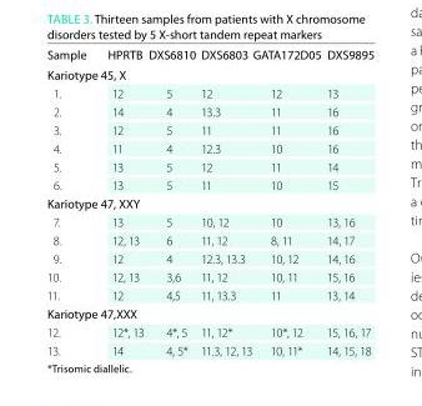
<table><thead><tr><td>sample</td><td>hPrTB</td><td>DXs6810</td><td>DXs6803</td><td>GaTa172D05</td><td>DXs9895</td></tr></thead><tbody><tr><td colspan="6">Kariotype 45, X</td></tr><tr><td>1.</td><td>12</td><td>5</td><td>12</td><td>12</td><td>13</td></tr><tr><td>2.</td><td>14</td><td>4</td><td>13.3</td><td>11</td><td>16</td></tr><tr><td>3.</td><td>12</td><td>5</td><td>11</td><td>11</td><td>16</td></tr><tr><td>4.</td><td>11</td><td>4</td><td>12.3</td><td>10</td><td>16</td></tr><tr><td>5.</td><td>13</td><td>5</td><td>12</td><td>11</td><td>14</td></tr><tr><td>6.</td><td>13</td><td>5</td><td>11</td><td>10</td><td>15</td></tr><tr><td colspan="6">Kariotype 47, XXY</td></tr><tr><td>7.</td><td>13</td><td>5</td><td>10, 12</td><td>10</td><td>13, 16</td></tr><tr><td>8.</td><td>12, 13</td><td>6</td><td>11, 12</td><td>8, 11</td><td>14, 17</td></tr><tr><td>9.</td><td>12</td><td>4</td><td>12.3, 13.3</td><td>10, 12</td><td>14, 16</td></tr><tr><td>10.</td><td>12, 13</td><td>3,6</td><td>11, 12</td><td>10, 11</td><td>15, 16</td></tr><tr><td>11.</td><td>12</td><td>4,5</td><td>11, 13.3</td><td>11</td><td>13, 14</td></tr><tr><td colspan="6">Kariotype 47,XXX</td></tr><tr><td>12.</td><td>12*, 13</td><td>4*, 5</td><td>11, 12*</td><td>10*, 12</td><td>15, 16, 17</td></tr><tr><td>13.</td><td>14</td><td>4, 5*</td><td>11.3, 12, 13</td><td>10, 11*</td><td>14, 15, 18</td></tr></tbody></table>